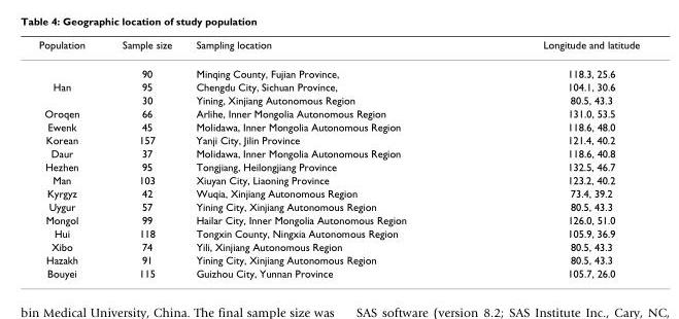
<table><thead><tr><td>Population</td><td>Sample size</td><td>Sampling location</td><td>Longitude and latitude</td></tr></thead><tbody><tr><td></td><td>90</td><td>Minqing County, Fujian Province,</td><td>118.3, 25.6</td></tr><tr><td rowspan="2">Han</td><td>95</td><td>Chengdu City, Sichuan Province,</td><td>104.1, 30.6</td></tr><tr><td>30</td><td>Yining, Xinjiang Autonomous Region</td><td>80.5, 43.3</td></tr><tr><td>Oroqen</td><td>66</td><td>Arlihe, Inner Mongolia Autonomous Region</td><td>131.0, 53.5</td></tr><tr><td>Ewenk</td><td>45</td><td>Molidawa, Inner Mongolia Autonomous Region</td><td>118.6, 48.0</td></tr><tr><td>Korean</td><td>157</td><td>Yanji City, Jilin Province</td><td>121.4, 40.2</td></tr><tr><td>Daur</td><td>37</td><td>Molidawa, Inner Mongolia Autonomous Region</td><td>118.6, 40.8</td></tr><tr><td>Hezhen</td><td>95</td><td>Tongjiang, Heilongjiang Province</td><td>132.5, 46.7</td></tr><tr><td>Man</td><td>103</td><td>Xiuyan City, Liaoning Province</td><td>123.2, 40.2</td></tr><tr><td>Kyrgyz</td><td>42</td><td>Wuqia, Xinjiang Autonomous Region</td><td>73.4, 39.2</td></tr><tr><td>Uygur</td><td>57</td><td>Yining City, Xinjiang Autonomous Region</td><td>80.5, 43.3</td></tr><tr><td>Mongol</td><td>99</td><td>Hailar City, Inner Mongolia Autonomous Region</td><td>126.0, 51.0</td></tr><tr><td>Hui</td><td>118</td><td>Tongxin County, Ningxia Autonomous Region</td><td>105.9, 36.9</td></tr><tr><td>Xibo</td><td>74</td><td>Yili, Xinjiang Autonomous Region</td><td>80.5, 43.3</td></tr><tr><td>Hazakh</td><td>91</td><td>Yining City, Xinjiang Autonomous Region</td><td>80.5, 43.3</td></tr><tr><td>Bouyei</td><td>115</td><td>Guizhou City, Yunnan Province</td><td>105.7, 26.0</td></tr></tbody></table>